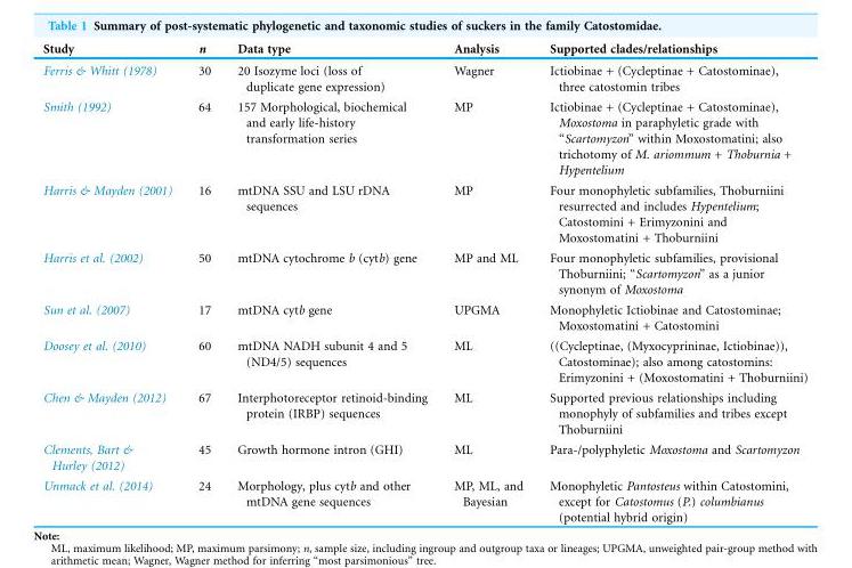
<table><thead><tr><td>Study</td><td>n</td><td>Data type</td><td>Analysis</td><td>Supported clades/relationships</td></tr></thead><tbody><tr><td>Ferris &amp; Whitt (1978)</td><td>30</td><td>20 Isozyme loci (loss of duplicate gene expression)</td><td>Wagner</td><td>Ictiobinae + (Cycleptinae + Catostominae), three catostomin tribes</td></tr><tr><td>Smith (1992)</td><td>64</td><td>157 Morphological, biochemical and early life-history transformation series</td><td>MP</td><td>Ictiobinae + (Cycleptinae + Catostominae), Moxostoma in paraphyletic grade with “Scartomyzon” within Moxostomatini; also trichotomy of M. ariommum + Thoburnia + Hypentelium</td></tr><tr><td>Harris &amp; Mayden (2001)</td><td>16</td><td>mtDNA SSU and LSU rDNA sequences</td><td>MP</td><td>Four monophyletic subfamilies, Thoburniini resurrected and includes Hypentelium; Catostomini + Erimyzonini and Moxostomatini + Thoburniini</td></tr><tr><td>Harris et al. (2002)</td><td>50</td><td>mtDNA cytochrome b (cytb) gene</td><td>MP and ML</td><td>Four monophyletic subfamilies, provisional Thoburniini; “Scartomyzon” as a junior synonym of Moxostoma</td></tr><tr><td>Sun et al. (2007)</td><td>17</td><td>mtDNA cytb gene</td><td>UPGMA</td><td>Monophyletic Ictiobinae and Catostominae; Moxostomatini + Catostomini</td></tr><tr><td>Doosey et al. (2010)</td><td>60</td><td>mtDNA NADH subunit 4 and 5 (ND4/5) sequences</td><td>ML</td><td>((Cycleptinae, (Myxocyprininae, Ictiobinae)), Catostominae); also among catostomins: Erimyzonini + (Moxostomatini + Thoburniini)</td></tr><tr><td>Chen &amp; Mayden (2012)</td><td>67</td><td>Interphotoreceptor retinoid-binding protein (IRBP) sequences</td><td>ML</td><td>Supported previous relationships including monophyly of subfamilies and tribes except Thoburniini</td></tr><tr><td>Clements, Bart &amp; Hurley (2012)</td><td>45</td><td>Growth hormone intron (GHI)</td><td>ML</td><td>Para-/polyphyletic Moxostoma and Scartomyzon</td></tr><tr><td>Unmack et al. (2014)</td><td>24</td><td>Morphology, plus cytb and other mtDNA gene sequences</td><td>MP, ML, and Bayesian</td><td>Monophyletic Pantosteus within Catostomini, except for Catostomus (P.) columbianus (potential hybrid origin)</td></tr></tbody></table>